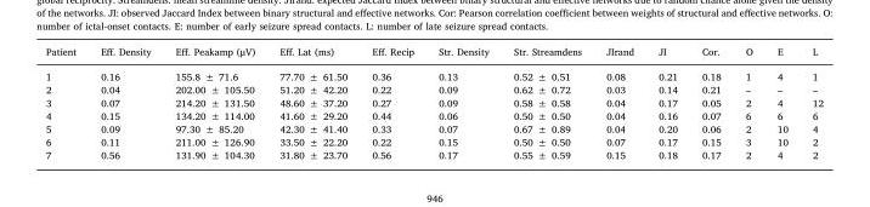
<table><thead><tr><td>Patient</td><td>Eff. Density</td><td>Eff. Peakamp (μV)</td><td>Eff. Lat (ms)</td><td>Eff. Recip</td><td>Str. Density</td><td>Str. Streamdens</td><td>JIrand</td><td>JI</td><td>Cor.</td><td>O</td><td>E</td><td>L</td></tr></thead><tbody><tr><td>1</td><td>0.16</td><td>155.8 ± 71.6</td><td>77.70 ± 61.50</td><td>0.36</td><td>0.13</td><td>0.52 ± 0.51</td><td>0.08</td><td>0.21</td><td>0.18</td><td>1</td><td>4</td><td>1</td></tr><tr><td>2</td><td>0.04</td><td>202.00 ± 105.50</td><td>51.20 ± 42.20</td><td>0.22</td><td>0.09</td><td>0.62 ± 0.72</td><td>0.03</td><td>0.14</td><td>0.21</td><td>–</td><td>–</td><td>–</td></tr><tr><td>3</td><td>0.07</td><td>214.20 ± 131.50</td><td>48.60 ± 37.20</td><td>0.27</td><td>0.09</td><td>0.58 ± 0.58</td><td>0.04</td><td>0.17</td><td>0.05</td><td>2</td><td>4</td><td>12</td></tr><tr><td>4</td><td>0.15</td><td>134.20 ± 114.00</td><td>41.60 ± 29.20</td><td>0.44</td><td>0.06</td><td>0.50 ± 0.50</td><td>0.04</td><td>0.16</td><td>0.07</td><td>6</td><td>6</td><td>6</td></tr><tr><td>5</td><td>0.09</td><td>97.30 ± 85.20</td><td>42.30 ± 41.40</td><td>0.33</td><td>0.07</td><td>0.67 ± 0.89</td><td>0.04</td><td>0.20</td><td>0.06</td><td>2</td><td>10</td><td>4</td></tr><tr><td>6</td><td>0.11</td><td>211.00 ± 126.90</td><td>33.50 ± 22.20</td><td>0.22</td><td>0.15</td><td>0.50 ± 0.50</td><td>0.07</td><td>0.17</td><td>0.15</td><td>3</td><td>10</td><td>2</td></tr><tr><td>7</td><td>0.56</td><td>131.90 ± 104.30</td><td>31.80 ± 23.70</td><td>0.56</td><td>0.17</td><td>0.55 ± 0.59</td><td>0.15</td><td>0.18</td><td>0.17</td><td>2</td><td>4</td><td>2</td></tr></tbody></table>